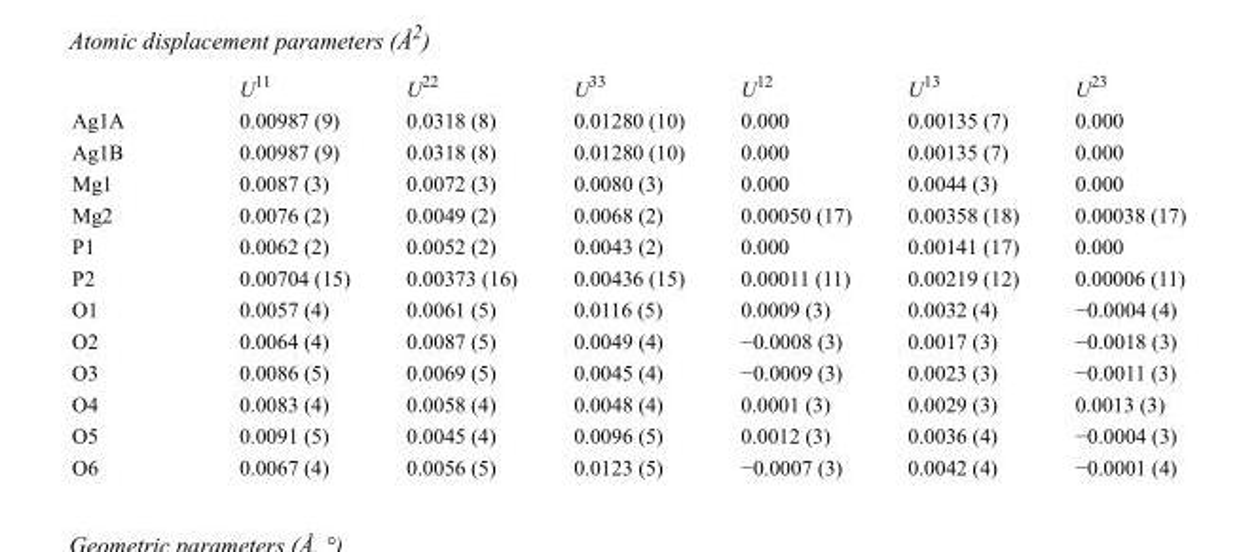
<table><thead><tr><td></td><td>U<sup>11</sup></td><td>U<sup>22</sup></td><td>U<sup>33</sup></td><td>U<sup>12</sup></td><td>U<sup>13</sup></td><td>U<sup>23</sup></td></tr></thead><tbody><tr><td>Ag1A</td><td>0.00987 (9)</td><td>0.0318 (8)</td><td>0.01280 (10)</td><td>0.000</td><td>0.00135 (7)</td><td>0.000</td></tr><tr><td>Ag1B</td><td>0.00987 (9)</td><td>0.0318 (8)</td><td>0.01280 (10)</td><td>0.000</td><td>0.00135 (7)</td><td>0.000</td></tr><tr><td>Mg1</td><td>0.0087 (3)</td><td>0.0072 (3)</td><td>0.0080 (3)</td><td>0.000</td><td>0.0044 (3)</td><td>0.000</td></tr><tr><td>Mg2</td><td>0.0076 (2)</td><td>0.0049 (2)</td><td>0.0068 (2)</td><td>0.00050 (17)</td><td>0.00358 (18)</td><td>0.00038 (17)</td></tr><tr><td>P1</td><td>0.0062 (2)</td><td>0.0052 (2)</td><td>0.0043 (2)</td><td>0.000</td><td>0.00141 (17)</td><td>0.000</td></tr><tr><td>P2</td><td>0.00704 (15)</td><td>0.00373 (16)</td><td>0.00436 (15)</td><td>0.00011 (11)</td><td>0.00219 (12)</td><td>0.00006 (11)</td></tr><tr><td>O1</td><td>0.0057 (4)</td><td>0.0061 (5)</td><td>0.0116 (5)</td><td>0.0009 (3)</td><td>0.0032 (4)</td><td>−0.0004 (4)</td></tr><tr><td>O2</td><td>0.0064 (4)</td><td>0.0087 (5)</td><td>0.0049 (4)</td><td>−0.0008 (3)</td><td>0.0017 (3)</td><td>−0.0018 (3)</td></tr><tr><td>O3</td><td>0.0086 (5)</td><td>0.0069 (5)</td><td>0.0045 (4)</td><td>−0.0009 (3)</td><td>0.0023 (3)</td><td>−0.0011 (3)</td></tr><tr><td>O4</td><td>0.0083 (4)</td><td>0.0058 (4)</td><td>0.0048 (4)</td><td>0.0001 (3)</td><td>0.0029 (3)</td><td>0.0013 (3)</td></tr><tr><td>O5</td><td>0.0091 (5)</td><td>0.0045 (4)</td><td>0.0096 (5)</td><td>0.0012 (3)</td><td>0.0036 (4)</td><td>−0.0004 (3)</td></tr><tr><td>O6</td><td>0.0067 (4)</td><td>0.0056 (5)</td><td>0.0123 (5)</td><td>−0.0007 (3)</td><td>0.0042 (4)</td><td>−0.0001 (4)</td></tr></tbody></table>